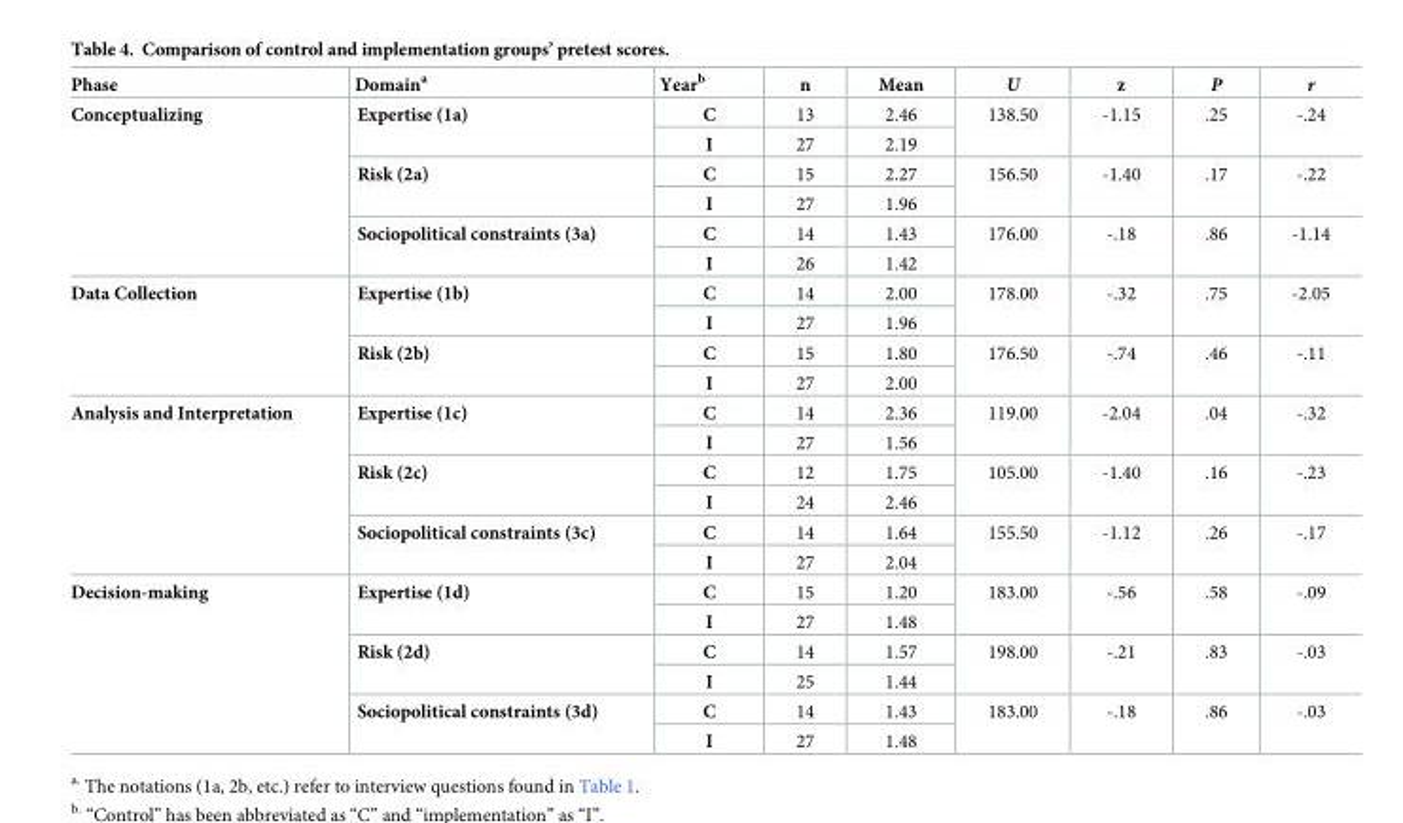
<table><thead><tr><td>Phase</td><td>Domain<sup>a</sup></td><td>Year<sup>b</sup></td><td>n</td><td>Mean</td><td>U</td><td>z</td><td>P</td><td>r</td></tr></thead><tbody><tr><td rowspan="6">Conceptualizing</td><td rowspan="2">Expertise (1a)</td><td>C</td><td>13</td><td>2.46</td><td rowspan="2">138.50</td><td rowspan="2">-1.15</td><td rowspan="2">.25</td><td rowspan="2">-.24</td></tr><tr><td>I</td><td>27</td><td>2.19</td></tr><tr><td rowspan="2">Risk (2a)</td><td>C</td><td>15</td><td>2.27</td><td rowspan="2">156.50</td><td rowspan="2">-1.40</td><td rowspan="2">.17</td><td rowspan="2">-.22</td></tr><tr><td>I</td><td>27</td><td>1.96</td></tr><tr><td rowspan="2">Sociopolitical constraints (3a)</td><td>C</td><td>14</td><td>1.43</td><td rowspan="2">176.00</td><td rowspan="2">-.18</td><td rowspan="2">.86</td><td rowspan="2">-1.14</td></tr><tr><td>I</td><td>26</td><td>1.42</td></tr><tr><td rowspan="4">Data Collection</td><td rowspan="2">Expertise (1b)</td><td>C</td><td>14</td><td>2.00</td><td rowspan="2">178.00</td><td rowspan="2">-.32</td><td rowspan="2">.75</td><td rowspan="2">-2.05</td></tr><tr><td>I</td><td>27</td><td>1.96</td></tr><tr><td rowspan="2">Risk (2b)</td><td>C</td><td>15</td><td>1.80</td><td rowspan="2">176.50</td><td rowspan="2">-.74</td><td rowspan="2">.46</td><td rowspan="2">-.11</td></tr><tr><td>I</td><td>27</td><td>2.00</td></tr><tr><td rowspan="6">Analysis and Interpretation</td><td rowspan="2">Expertise (1c)</td><td>C</td><td>14</td><td>2.36</td><td rowspan="2">119.00</td><td rowspan="2">-2.04</td><td rowspan="2">.04</td><td rowspan="2">-.32</td></tr><tr><td>I</td><td>27</td><td>1.56</td></tr><tr><td rowspan="2">Risk (2c)</td><td>C</td><td>12</td><td>1.75</td><td rowspan="2">105.00</td><td rowspan="2">-1.40</td><td rowspan="2">.16</td><td rowspan="2">-.23</td></tr><tr><td>I</td><td>24</td><td>2.46</td></tr><tr><td rowspan="2">Sociopolitical constraints (3c)</td><td>C</td><td>14</td><td>1.64</td><td rowspan="2">155.50</td><td rowspan="2">-1.12</td><td rowspan="2">.26</td><td rowspan="2">-.17</td></tr><tr><td>I</td><td>27</td><td>2.04</td></tr><tr><td rowspan="6">Decision-making</td><td rowspan="2">Expertise (1d)</td><td>C</td><td>15</td><td>1.20</td><td rowspan="2">183.00</td><td rowspan="2">-.56</td><td rowspan="2">.58</td><td rowspan="2">-.09</td></tr><tr><td>I</td><td>27</td><td>1.48</td></tr><tr><td rowspan="2">Risk (2d)</td><td>C</td><td>14</td><td>1.57</td><td rowspan="2">198.00</td><td rowspan="2">-.21</td><td rowspan="2">.83</td><td rowspan="2">-.03</td></tr><tr><td>I</td><td>25</td><td>1.44</td></tr><tr><td rowspan="2">Sociopolitical constraints (3d)</td><td>C</td><td>14</td><td>1.43</td><td rowspan="2">183.00</td><td rowspan="2">-.18</td><td rowspan="2">.86</td><td rowspan="2">-.03</td></tr><tr><td>I</td><td>27</td><td>1.48</td></tr></tbody></table>